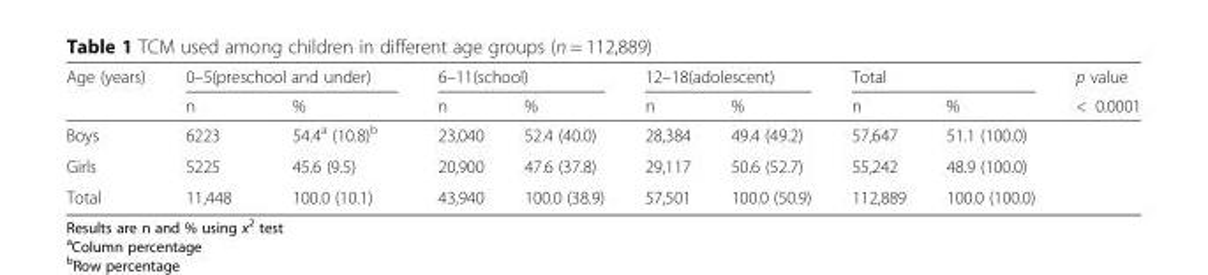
<table><thead><tr><td rowspan="2">Age (years)</td><td colspan="2">0–5(preschool and under)</td><td colspan="2">6–11(school)</td><td colspan="2">12–18(adolescent)</td><td colspan="2">Total</td><td rowspan="2">p value &lt; 0.0001</td></tr><tr><td>n</td><td>%</td><td>n</td><td>%</td><td>n</td><td>%</td><td>n</td><td>%</td></tr></thead><tbody><tr><td>Boys</td><td>6223</td><td>54.4<sup>a</sup> (10.8)<sup>b</sup></td><td>23,040</td><td>52.4 (40.0)</td><td>28,384</td><td>49.4 (49.2)</td><td>57,647</td><td>51.1 (100.0)</td><td></td></tr><tr><td>Girls</td><td>5225</td><td>45.6 (9.5)</td><td>20,900</td><td>47.6 (37.8)</td><td>29,117</td><td>50.6 (52.7)</td><td>55,242</td><td>48.9 (100.0)</td><td></td></tr><tr><td>Total</td><td>11,448</td><td>100.0 (10.1)</td><td>43,940</td><td>100.0 (38.9)</td><td>57,501</td><td>100.0 (50.9)</td><td>112,889</td><td>100.0 (100.0)</td><td></td></tr></tbody></table>